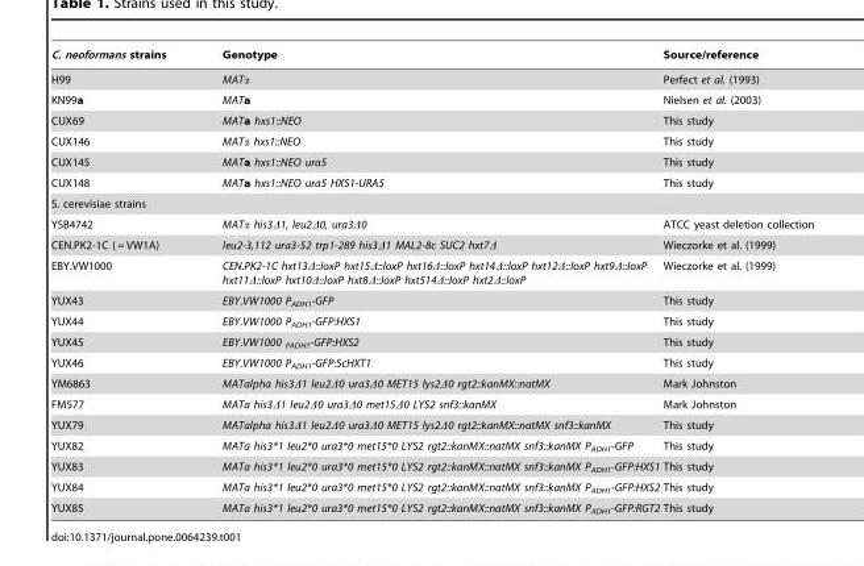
<table><thead><tr><td>C. neoformans strains</td><td>Genotype</td><td>Source/reference</td></tr></thead><tbody><tr><td>H99</td><td>MATα</td><td>Perfect et al. (1993)</td></tr><tr><td>KN99a</td><td>MATa</td><td>Nielsen et al. (2003)</td></tr><tr><td>CUX69</td><td>MATa hxs1::NEO</td><td>This study</td></tr><tr><td>CUX146</td><td>MATα hxs1::NEO</td><td>This study</td></tr><tr><td>CUX145</td><td>MATa hxs1::NEO ura5</td><td>This study</td></tr><tr><td>CUX148</td><td>MATa hxs1::NEO ura5 HXS1-URA5</td><td>This study</td></tr><tr><td colspan="3">S. cerevisiae strains</td></tr><tr><td>YSB4742</td><td>MATα his3Δ1, leu2Δ0, ura3Δ0</td><td>ATCC yeast deletion collection</td></tr><tr><td>CEN.PK2-1C ( = VW1A)</td><td>leu2-3,112 ura3-52 trp1-289 his3Δ1 MAL2-8c SUC2 hxt7Δ</td><td>Wieczorke et al. (1999)</td></tr><tr><td>EBY.VW1000</td><td>CEN.PK2-1C hxt13Δ::loxP hxt15Δ::loxP hxt16Δ::loxP hxt14Δ::loxP hxt12Δ::loxP hxt9Δ::loxP hxt11Δ::loxP hxt10Δ::loxP hxt8Δ::loxP hxt514Δ::loxP hxt2Δ::loxP</td><td>Wieczorke et al. (1999)</td></tr><tr><td>YUX43</td><td>EBY.VW1000 P<sub>ADH1</sub>-GFP</td><td>This study</td></tr><tr><td>YUX44</td><td>EBY.VW1000 P<sub>ADH1</sub>-GFP:HXS1</td><td>This study</td></tr><tr><td>YUX45</td><td>EBY.VW1000 <sub>PADH1</sub>-GFP:HXS2</td><td>This study</td></tr><tr><td>YUX46</td><td>EBY.VW1000 P<sub>ADH1</sub>-GFP:ScHXT1</td><td>This study</td></tr><tr><td>YM6863</td><td>MATalpha his3Δ1 leu2Δ0 ura3Δ0 MET15 lys2Δ0 rgt2::kanMX::natMX</td><td>Mark Johnston</td></tr><tr><td>FM577</td><td>MATa his3Δ1 leu2Δ0 ura3Δ0 met15Δ0 LYS2 snf3::kanMX</td><td>Mark Johnston</td></tr><tr><td>YUX79</td><td>MATalpha his3Δ1 leu2Δ0 ura3Δ0 MET15 lys2Δ0 rgt2::kanMX::natMX snf3::kanMX</td><td>This study</td></tr><tr><td>YUX82</td><td>MATa his3*1 leu2*0 ura3*0 met15*0 LYS2 rgt2::kanMX::natMX snf3::kanMX P<sub>ADH1</sub>-GFP</td><td>This study</td></tr><tr><td>YUX83</td><td>MATa his3*1 leu2*0 ura3*0 met15*0 LYS2 rgt2::kanMX::natMX snf3::kanMX P<sub>ADH1</sub>-GFP:HXS1</td><td>This study</td></tr><tr><td>YUX84</td><td>MATa his3*1 leu2*0 ura3*0 met15*0 LYS2 rgt2::kanMX::natMX snf3::kanMX P<sub>ADH1</sub>-GFP:HXS2</td><td>This study</td></tr><tr><td>YUX85</td><td>MATa his3*1 leu2*0 ura3*0 met15*0 LYS2 rgt2::kanMX::natMX snf3::kanMX P<sub>ADH1</sub>-GFP:RGT2</td><td>This study</td></tr></tbody></table>